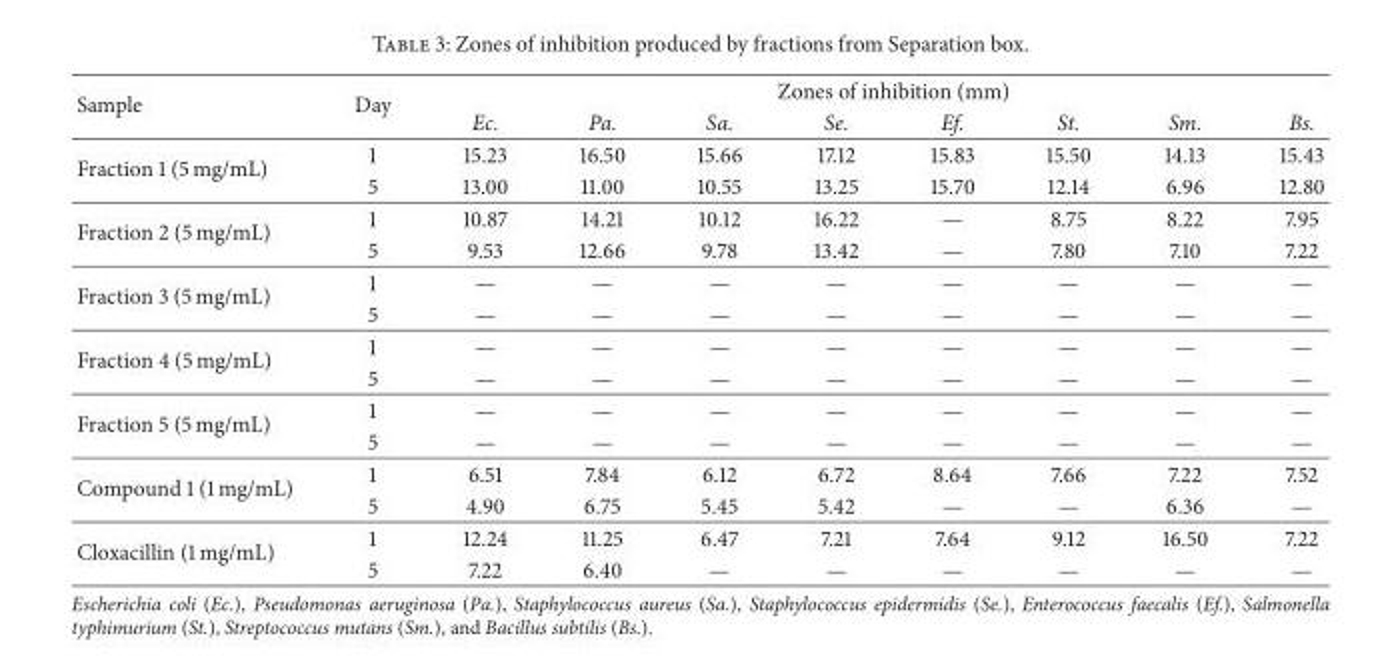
<table><thead><tr><td rowspan="2">Sample</td><td rowspan="2">Day</td><td colspan="8">Zones of inhibition (mm)</td></tr><tr><td>Ec.</td><td>Pa.</td><td>Sa.</td><td>Se.</td><td>Ef.</td><td>St.</td><td>Sm.</td><td>Bs.</td></tr></thead><tbody><tr><td rowspan="2">Fraction 1 (5 mg/mL)</td><td>1</td><td>15.23</td><td>16.50</td><td>15.66</td><td>17.12</td><td>15.83</td><td>15.50</td><td>14.13</td><td>15.43</td></tr><tr><td>5</td><td>13.00</td><td>11.00</td><td>10.55</td><td>13.25</td><td>15.70</td><td>12.14</td><td>6.96</td><td>12.80</td></tr><tr><td rowspan="2">Fraction 2 (5 mg/mL)</td><td>1</td><td>10.87</td><td>14.21</td><td>10.12</td><td>16.22</td><td>—</td><td>8.75</td><td>8.22</td><td>7.95</td></tr><tr><td>5</td><td>9.53</td><td>12.66</td><td>9.78</td><td>13.42</td><td>—</td><td>7.80</td><td>7.10</td><td>7.22</td></tr><tr><td rowspan="2">Fraction 3 (5 mg/mL)</td><td>1</td><td>—</td><td>—</td><td>—</td><td>—</td><td>—</td><td>—</td><td>—</td><td>—</td></tr><tr><td>5</td><td>—</td><td>—</td><td>—</td><td>—</td><td>—</td><td>—</td><td>—</td><td>—</td></tr><tr><td rowspan="2">Fraction 4 (5 mg/mL)</td><td>1</td><td>—</td><td>—</td><td>—</td><td>—</td><td>—</td><td>—</td><td>—</td><td>—</td></tr><tr><td>5</td><td>—</td><td>—</td><td>—</td><td>—</td><td>—</td><td>—</td><td>—</td><td>—</td></tr><tr><td rowspan="2">Fraction 5 (5 mg/mL)</td><td>1</td><td>—</td><td>—</td><td>—</td><td>—</td><td>—</td><td>—</td><td>—</td><td>—</td></tr><tr><td>5</td><td>—</td><td>—</td><td>—</td><td>—</td><td>—</td><td>—</td><td>—</td><td>—</td></tr><tr><td rowspan="2">Compound 1 (1 mg/mL)</td><td>1</td><td>6.51</td><td>7.84</td><td>6.12</td><td>6.72</td><td>8.64</td><td>7.66</td><td>7.22</td><td>7.52</td></tr><tr><td>5</td><td>4.90</td><td>6.75</td><td>5.45</td><td>5.42</td><td>—</td><td>—</td><td>6.36</td><td>—</td></tr><tr><td rowspan="2">Cloxacillin (1 mg/mL)</td><td>1</td><td>12.24</td><td>11.25</td><td>6.47</td><td>7.21</td><td>7.64</td><td>9.12</td><td>16.50</td><td>7.22</td></tr><tr><td>5</td><td>7.22</td><td>6.40</td><td>—</td><td>—</td><td>—</td><td>—</td><td>—</td><td>—</td></tr></tbody></table>